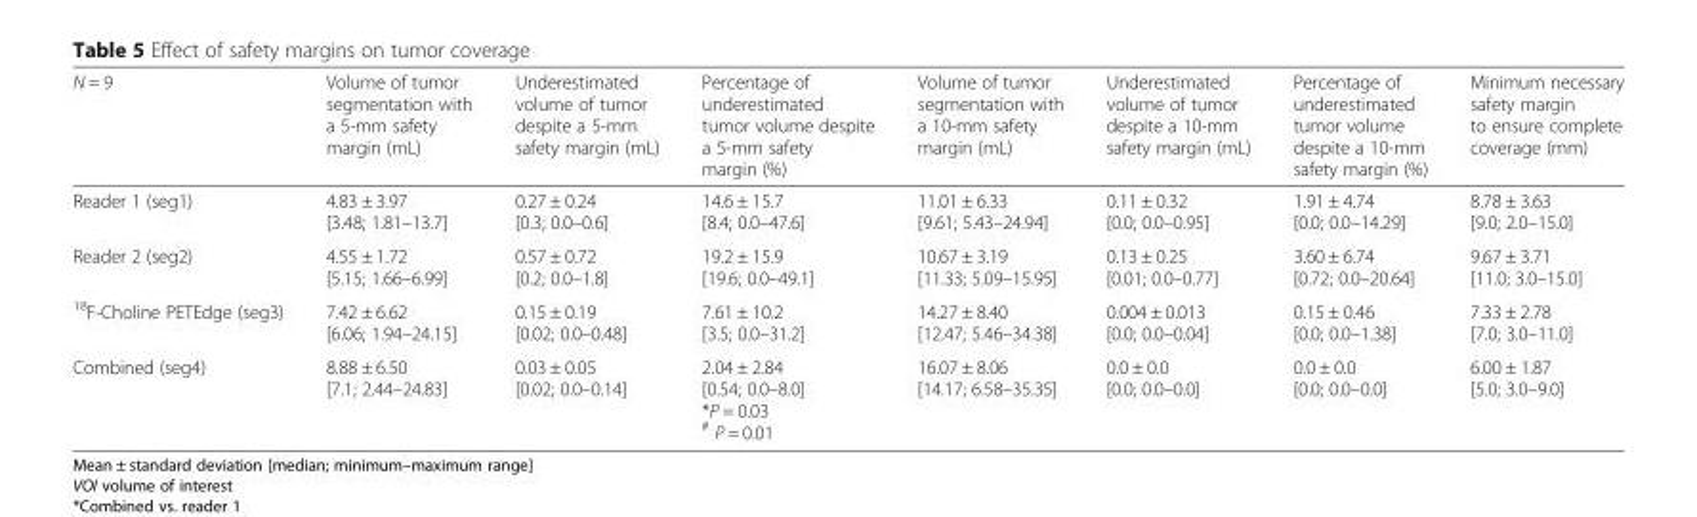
<table><thead><tr><td>N = 9</td><td>Volume of tumor segmentation with a 5-mm safety margin (mL)</td><td>Underestimated volume of tumor despite a 5-mm safety margin (mL)</td><td>Percentage of underestimated tumor volume despite a 5-mm safety margin (%)</td><td>Volume of tumor segmentation with a 10-mm safety margin (mL)</td><td>Underestimated volume of tumor despite a 10-mm safety margin (mL)</td><td>Percentage of underestimated tumor volume despite a 10-mm safety margin (%)</td><td>Minimum necessary safety margin to ensure complete coverage (mm)</td></tr></thead><tbody><tr><td>Reader 1 (seg1)</td><td>4.83 ± 3.97 [3.48; 1.81–13.7]</td><td>0.27 ± 0.24 [0.3; 0.0–0.6]</td><td>14.6 ± 15.7 [8.4; 0.0–47.6]</td><td>11.01 ± 6.33 [9.61; 5.43–24.94]</td><td>0.11 ± 0.32 [0.0; 0.0–0.95]</td><td>1.91 ± 4.74 [0.0; 0.0–14.29]</td><td>8.78 ± 3.63 [9.0; 2.0–15.0]</td></tr><tr><td>Reader 2 (seg2)</td><td>4.55 ± 1.72 [5.15; 1.66–6.99]</td><td>0.57 ± 0.72 [0.2; 0.0–1.8]</td><td>19.2 ± 15.9 [19.6; 0.0–49.1]</td><td>10.67 ± 3.19 [11.33; 5.09–15.95]</td><td>0.13 ± 0.25 [0.01; 0.0–0.77]</td><td>3.60 ± 6.74 [0.72; 0.0–20.64]</td><td>9.67 ± 3.71 [11.0; 3.0–15.0]</td></tr><tr><td><sup>18</sup>F-Choline PETEdge (seg3)</td><td>7.42 ± 6.62 [6.06; 1.94–24.15]</td><td>0.15 ± 0.19 [0.02; 0.0–0.48]</td><td>7.61 ± 10.2 [3.5; 0.0–31.2]</td><td>14.27 ± 8.40 [12.47; 5.46–34.38]</td><td>0.004 ± 0.013 [0.0; 0.0–0.04]</td><td>0.15 ± 0.46 [0.0; 0.0–1.38]</td><td>7.33 ± 2.78 [7.0; 3.0–11.0]</td></tr><tr><td>Combined (seg4)</td><td>8.88 ± 6.50 [7.1; 2.44–24.83]</td><td>0.03 ± 0.05 [0.02; 0.0–0.14]</td><td>2.04 ± 2.84 [0.54; 0.0–8.0] *P = 0.03 <sup>#</sup> P = 0.01</td><td>16.07 ± 8.06 [14.17; 6.58–35.35]</td><td>0.0 ± 0.0 [0.0; 0.0–0.0]</td><td>0.0 ± 0.0 [0.0; 0.0–0.0]</td><td>6.00 ± 1.87 [5.0; 3.0–9.0]</td></tr></tbody></table>